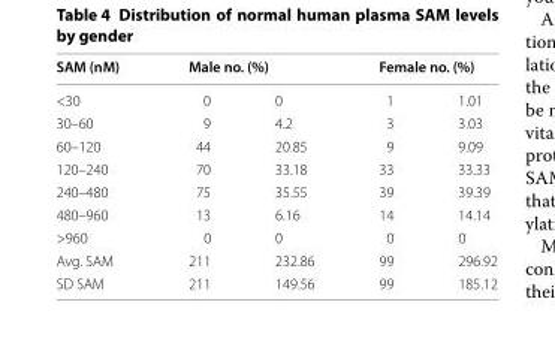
<table><thead><tr><td rowspan="2">SAM (nM) &lt;30</td><td colspan="2">Male no. (%)</td><td colspan="2">Female no. (%)</td></tr><tr><td>0</td><td>0</td><td>1</td><td>1.01</td></tr></thead><tbody><tr><td>30–60</td><td>9</td><td>4.2</td><td>3</td><td>3.03</td></tr><tr><td>60–120</td><td>44</td><td>20.85</td><td>9</td><td>9.09</td></tr><tr><td>120–240</td><td>70</td><td>33.18</td><td>33</td><td>33.33</td></tr><tr><td>240–480</td><td>75</td><td>35.55</td><td>39</td><td>39.39</td></tr><tr><td>480–960</td><td>13</td><td>6.16</td><td>14</td><td>14.14</td></tr><tr><td>&gt;960</td><td>0</td><td>0</td><td>0</td><td>0</td></tr><tr><td>Avg. SAM</td><td>211</td><td>232.86</td><td>99</td><td>296.92</td></tr><tr><td>SD SAM</td><td>211</td><td>149.56</td><td>99</td><td>185.12</td></tr></tbody></table>